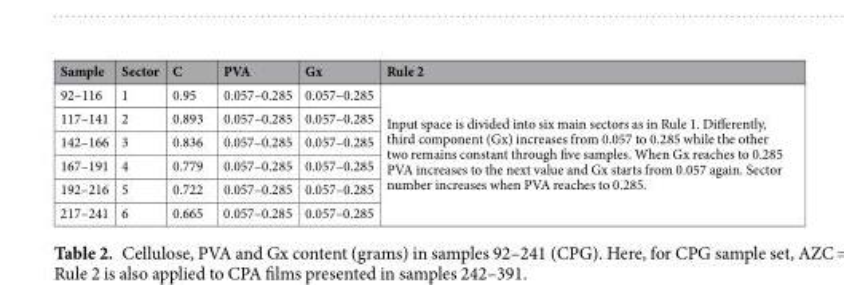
<table><thead><tr><td>Sample</td><td>Sector</td><td>C</td><td>PVA</td><td>Gx</td><td>Rule 2</td></tr></thead><tbody><tr><td>92–116</td><td>1</td><td>0.95</td><td>0.057–0.285</td><td>0.057–0.285</td><td rowspan="6">Input space is divided into six main sectors as in Rule 1. Differently, third component (Gx) increases from 0.057 to 0.285 while the other two remains constant through five samples. When Gx reaches to 0.285 PVA increases to the next value and Gx starts from 0.057 again. Sector number increases when PVA reaches to 0.285.</td></tr><tr><td>117–141</td><td>2</td><td>0.893</td><td>0.057–0.285</td><td>0.057–0.285</td></tr><tr><td>142–166</td><td>3</td><td>0.836</td><td>0.057–0.285</td><td>0.057–0.285</td></tr><tr><td>167–191</td><td>4</td><td>0.779</td><td>0.057–0.285</td><td>0.057–0.285</td></tr><tr><td>192–216</td><td>5</td><td>0.722</td><td>0.057–0.285</td><td>0.057–0.285</td></tr><tr><td>217–241</td><td>6</td><td>0.665</td><td>0.057–0.285</td><td>0.057–0.285</td></tr></tbody></table>